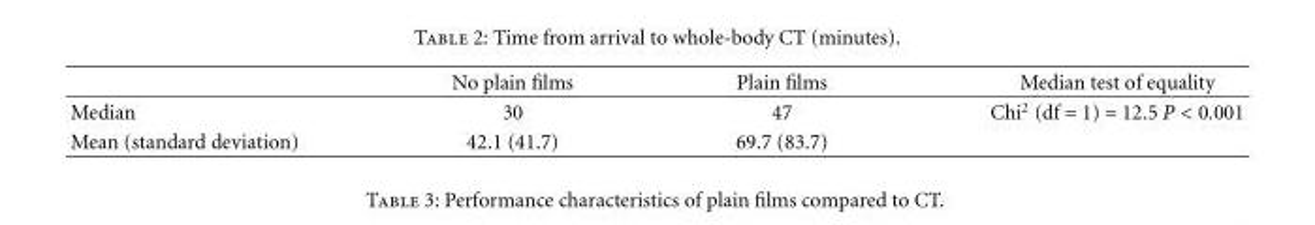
<table><thead><tr><td></td><td>No plain films</td><td>Plain films</td><td>Median test of equality</td></tr></thead><tbody><tr><td>Median</td><td>30</td><td>47</td><td>Chi<sup>2</sup> (df = 1) = 12.5 P &lt; 0.001</td></tr><tr><td>Mean (standard deviation)</td><td>42.1 (41.7)</td><td>69.7 (83.7)</td><td></td></tr></tbody></table>